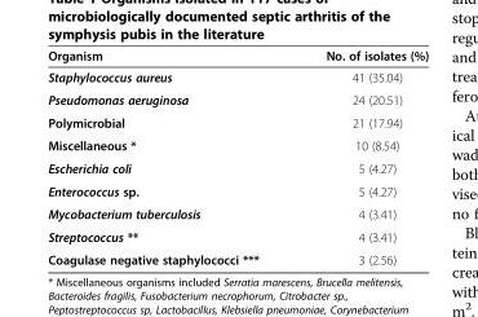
<table><thead><tr><td>Organism</td><td>No. of isolates (%)</td></tr></thead><tbody><tr><td>Staphylococcus aureus</td><td>41 (35.04)</td></tr><tr><td>Pseudomonas aeruginosa</td><td>24 (20.51)</td></tr><tr><td>Polymicrobial</td><td>21 (17.94)</td></tr><tr><td>Miscellaneous *</td><td>10 (8.54)</td></tr><tr><td>Escherichia coli</td><td>5 (4.27)</td></tr><tr><td>Enterococcus sp.</td><td>5 (4.27)</td></tr><tr><td>Mycobacterium tuberculosis</td><td>4 (3.41)</td></tr><tr><td>Streptococcus **</td><td>4 (3.41)</td></tr><tr><td>Coagulase negative staphylococci ***</td><td>3 (2.56)</td></tr></tbody></table>